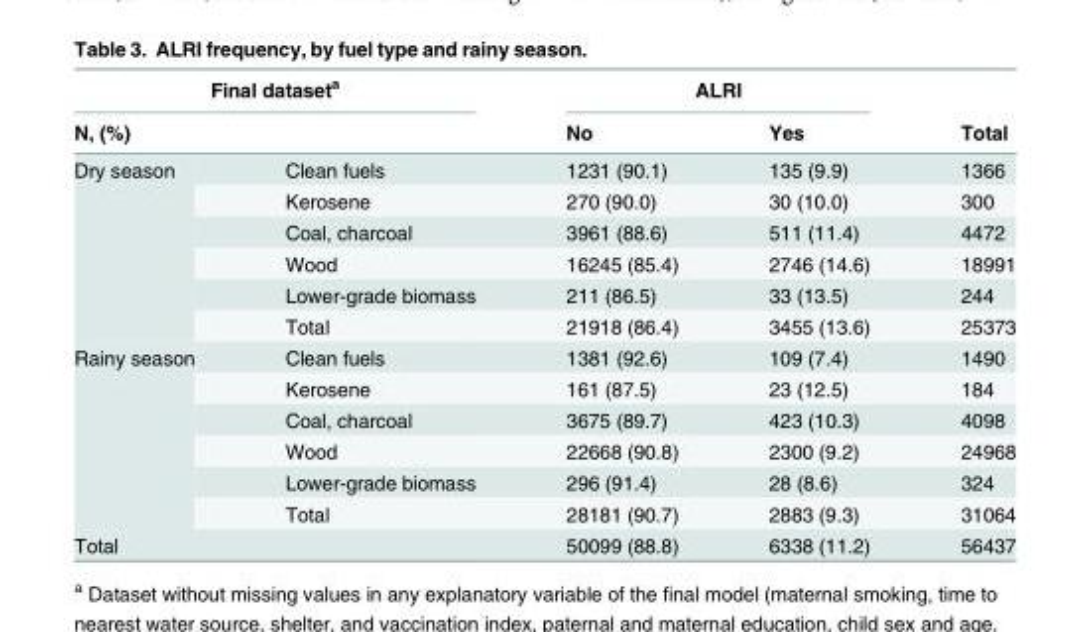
<table><thead><tr><td colspan="2">Final dataset<sup>a</sup></td><td colspan="2">ALRI</td><td rowspan="2">Total</td></tr><tr><td>N, (%)</td><td></td><td>No</td><td>Yes</td></tr></thead><tbody><tr><td rowspan="6">Dry season</td><td>Clean fuels</td><td>1231 (90.1)</td><td>135 (9.9)</td><td>1366</td></tr><tr><td>Kerosene</td><td>270 (90.0)</td><td>30 (10.0)</td><td>300</td></tr><tr><td>Coal, charcoal</td><td>3961 (88.6)</td><td>511 (11.4)</td><td>4472</td></tr><tr><td>Wood</td><td>16245 (85.4)</td><td>2746 (14.6)</td><td>18991</td></tr><tr><td>Lower-grade biomass</td><td>211 (86.5)</td><td>33 (13.5)</td><td>244</td></tr><tr><td>Total</td><td>21918 (86.4)</td><td>3455 (13.6)</td><td>25373</td></tr><tr><td rowspan="6">Rainy season</td><td>Clean fuels</td><td>1381 (92.6)</td><td>109 (7.4)</td><td>1490</td></tr><tr><td>Kerosene</td><td>161 (87.5)</td><td>23 (12.5)</td><td>184</td></tr><tr><td>Coal, charcoal</td><td>3675 (89.7)</td><td>423 (10.3)</td><td>4098</td></tr><tr><td>Wood</td><td>22668 (90.8)</td><td>2300 (9.2)</td><td>24968</td></tr><tr><td>Lower-grade biomass</td><td>296 (91.4)</td><td>28 (8.6)</td><td>324</td></tr><tr><td>Total</td><td>28181 (90.7)</td><td>2883 (9.3)</td><td>31064</td></tr><tr><td>Total</td><td></td><td>50099 (88.8)</td><td>6338 (11.2)</td><td>56437</td></tr></tbody></table>